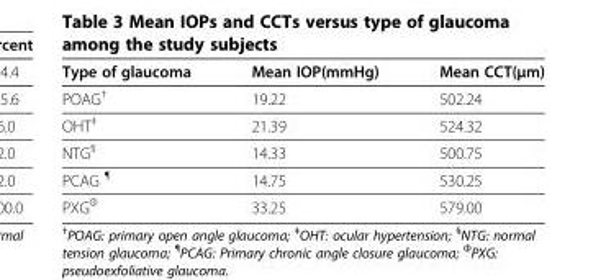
<table><thead><tr><td>Type of glaucoma</td><td>Mean IOP(mmHg)</td><td>Mean CCT(μm)</td></tr></thead><tbody><tr><td>POAG<sup>†</sup></td><td>19.22</td><td>502.24</td></tr><tr><td>OHT<sup>‡</sup></td><td>21.39</td><td>524.32</td></tr><tr><td>NTG<sup>§</sup></td><td>14.33</td><td>500.75</td></tr><tr><td>PCAG <sup>¶</sup></td><td>14.75</td><td>530.25</td></tr><tr><td>PXG<sup>Φ</sup></td><td>33.25</td><td>579.00</td></tr></tbody></table>